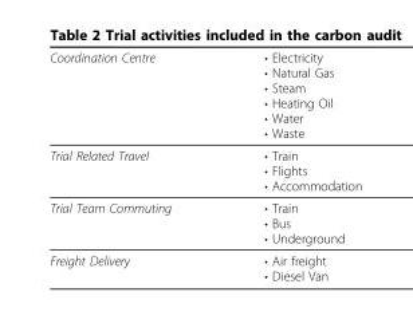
<table><thead><tr><td>Coordination Centre</td><td>• Electricity • Natural Gas • Steam • Heating Oil • Water • Waste</td></tr></thead><tbody><tr><td>Trial Related Travel</td><td>• Train • Flights • Accommodation</td></tr><tr><td>Trial Team Commuting</td><td>• Train • Bus • Underground</td></tr><tr><td>Freight Delivery</td><td>• Air freight • Diesel Van</td></tr></tbody></table>